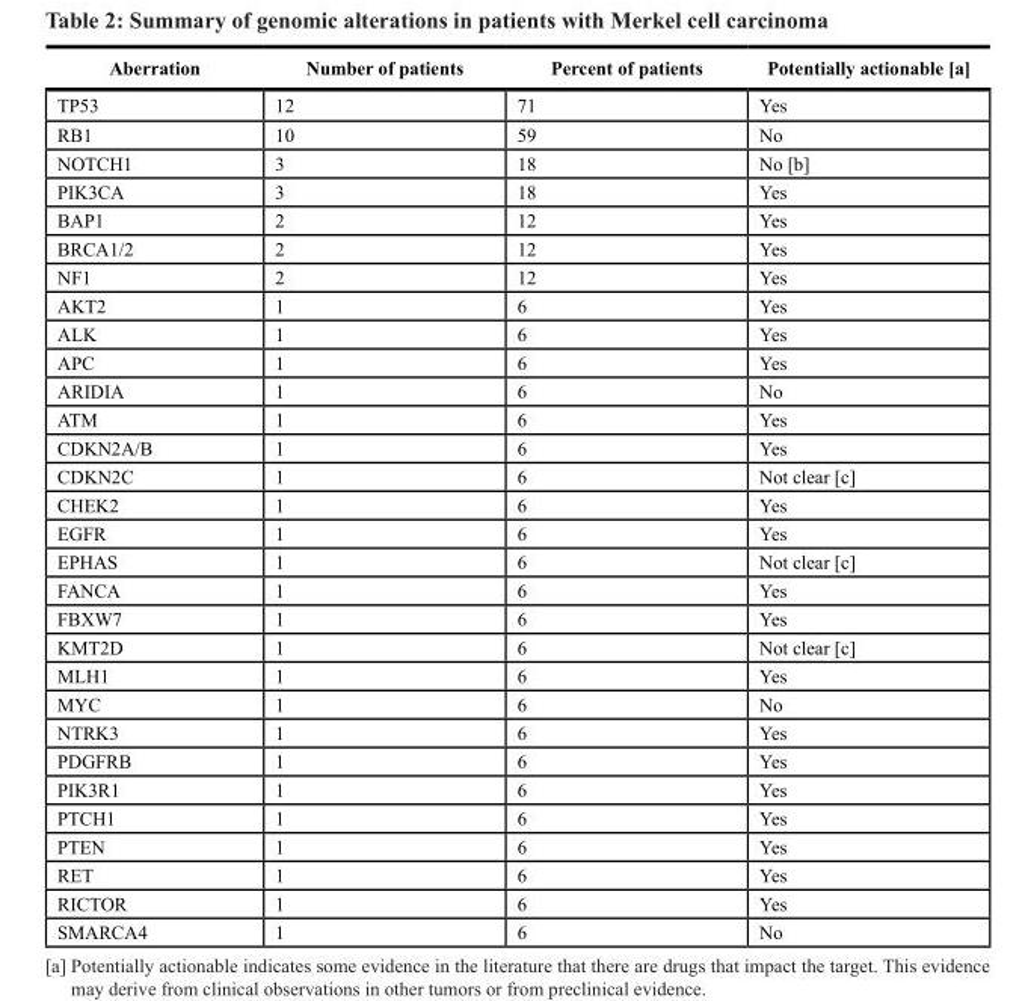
<table><thead><tr><td>Aberration</td><td>Number of patients</td><td>Percent of patients</td><td>Potentially actionable [a]</td></tr></thead><tbody><tr><td>TP53</td><td>12</td><td>71</td><td>Yes</td></tr><tr><td>RB1</td><td>10</td><td>59</td><td>No</td></tr><tr><td>NOTCH1</td><td>3</td><td>18</td><td>No [b]</td></tr><tr><td>PIK3CA</td><td>3</td><td>18</td><td>Yes</td></tr><tr><td>BAP1</td><td>2</td><td>12</td><td>Yes</td></tr><tr><td>BRCA1/2</td><td>2</td><td>12</td><td>Yes</td></tr><tr><td>NF1</td><td>2</td><td>12</td><td>Yes</td></tr><tr><td>AKT2</td><td>1</td><td>6</td><td>Yes</td></tr><tr><td>ALK</td><td>1</td><td>6</td><td>Yes</td></tr><tr><td>APC</td><td>1</td><td>6</td><td>Yes</td></tr><tr><td>ARIDIA</td><td>1</td><td>6</td><td>No</td></tr><tr><td>ATM</td><td>1</td><td>6</td><td>Yes</td></tr><tr><td>CDKN2A/B</td><td>1</td><td>6</td><td>Yes</td></tr><tr><td>CDKN2C</td><td>1</td><td>6</td><td>Not clear [c]</td></tr><tr><td>CHEK2</td><td>1</td><td>6</td><td>Yes</td></tr><tr><td>EGFR</td><td>1</td><td>6</td><td>Yes</td></tr><tr><td>EPHAS</td><td>1</td><td>6</td><td>Not clear [c]</td></tr><tr><td>FANCA</td><td>1</td><td>6</td><td>Yes</td></tr><tr><td>FBXW7</td><td>1</td><td>6</td><td>Yes</td></tr><tr><td>KMT2D</td><td>1</td><td>6</td><td>Not clear [c]</td></tr><tr><td>MLH1</td><td>1</td><td>6</td><td>Yes</td></tr><tr><td>MYC</td><td>1</td><td>6</td><td>No</td></tr><tr><td>NTRK3</td><td>1</td><td>6</td><td>Yes</td></tr><tr><td>PDGFRB</td><td>1</td><td>6</td><td>Yes</td></tr><tr><td>PIK3R1</td><td>1</td><td>6</td><td>Yes</td></tr><tr><td>PTCH1</td><td>1</td><td>6</td><td>Yes</td></tr><tr><td>PTEN</td><td>1</td><td>6</td><td>Yes</td></tr><tr><td>RET</td><td>1</td><td>6</td><td>Yes</td></tr><tr><td>RICTOR</td><td>1</td><td>6</td><td>Yes</td></tr><tr><td>SMARCA4</td><td>1</td><td>6</td><td>No</td></tr></tbody></table>